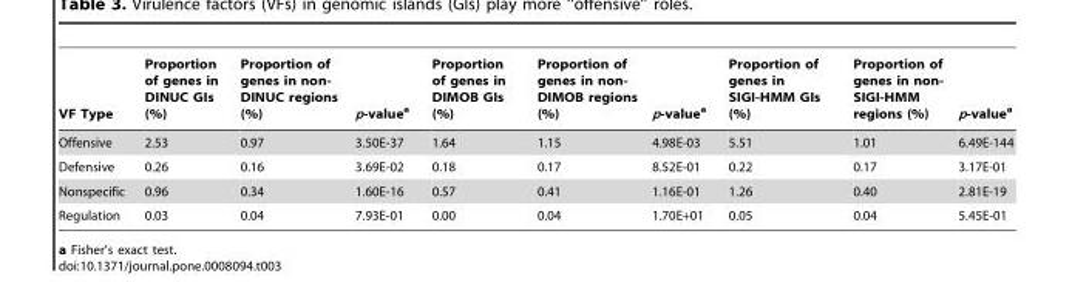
<table><thead><tr><td>VF Type</td><td>Proportion of genes in DINUC GIs (%)</td><td>Proportion of genes in non- DINUC regions (%)</td><td>p-value<sup>a</sup></td><td>Proportion of genes in DIMOB GIs (%)</td><td>Proportion of genes in non- DIMOB regions (%)</td><td>p-value<sup>a</sup></td><td>Proportion of genes in SIGI-HMM GIs (%)</td><td>Proportion of genes in non- SIGI-HMM regions (%)</td><td>p-value<sup>a</sup></td></tr></thead><tbody><tr><td>Offensive</td><td>2.53</td><td>0.97</td><td>3.50E-37</td><td>1.64</td><td>1.15</td><td>4.98E-03</td><td>5.51</td><td>1.01</td><td>6.49E-144</td></tr><tr><td>Defensive</td><td>0.26</td><td>0.16</td><td>3.69E-02</td><td>0.18</td><td>0.17</td><td>8.52E-01</td><td>0.22</td><td>0.17</td><td>3.17E-01</td></tr><tr><td>Nonspecific</td><td>0.96</td><td>0.34</td><td>1.60E-16</td><td>0.57</td><td>0.41</td><td>1.16E-01</td><td>1.26</td><td>0.40</td><td>2.81E-19</td></tr><tr><td>Regulation</td><td>0.03</td><td>0.04</td><td>7.93E-01</td><td>0.00</td><td>0.04</td><td>1.70E+01</td><td>0.05</td><td>0.04</td><td>5.45E-01</td></tr></tbody></table>